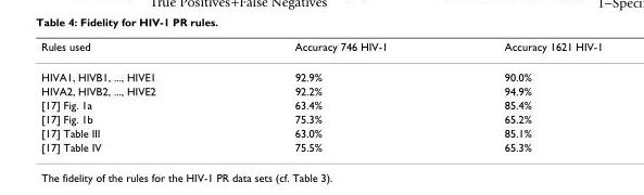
<table><thead><tr><td>Rules used</td><td>Accuracy 746 HIV-1</td><td>Accuracy 1621 HIV-1</td></tr></thead><tbody><tr><td>HIVA1, HIVB1, ..., HIVE1</td><td>92.9%</td><td>90.0%</td></tr><tr><td>HIVA2, HIVB2, ..., HIVE2</td><td>92.2%</td><td>94.9%</td></tr><tr><td>[17] Fig. 1a</td><td>63.4%</td><td>85.4%</td></tr><tr><td>[17] Fig. 1b</td><td>75.3%</td><td>65.2%</td></tr><tr><td>[17] Table III</td><td>63.0%</td><td>85.1%</td></tr><tr><td>[17] Table IV</td><td>75.5%</td><td>65.3%</td></tr></tbody></table>